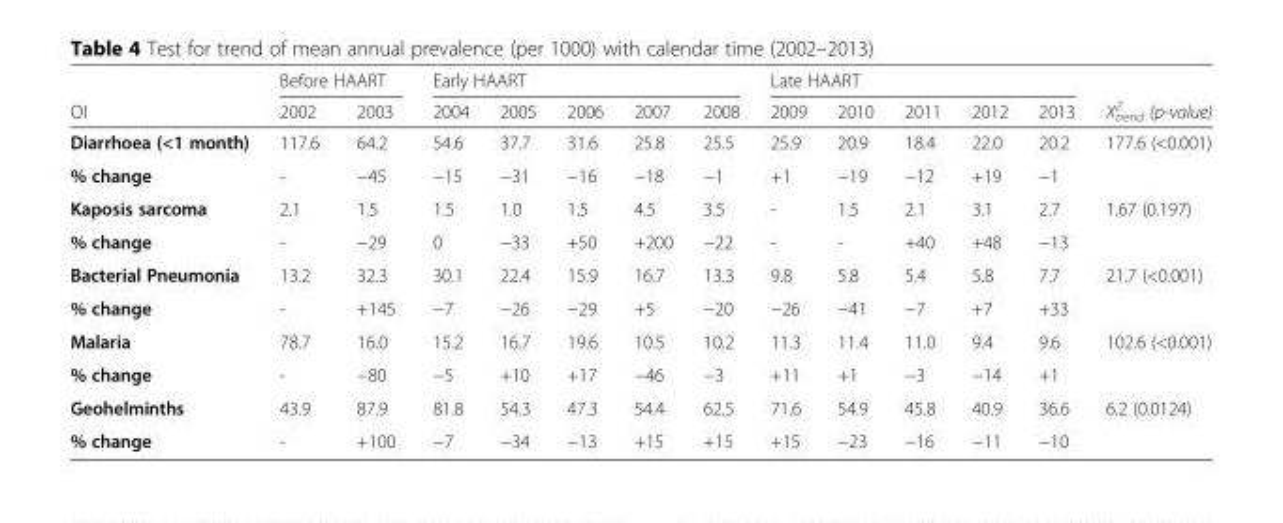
<table><thead><tr><td rowspan="2">OI</td><td colspan="2">Before HAART</td><td colspan="5">Early HAART</td><td colspan="5">Late HAART</td><td rowspan="2">X<sup>2</sup> <sub>trend</sub> (p-value)</td></tr><tr><td>2002</td><td>2003</td><td>2004</td><td>2005</td><td>2006</td><td>2007</td><td>2008</td><td>2009</td><td>2010</td><td>2011</td><td>2012</td><td>2013</td></tr></thead><tbody><tr><td>Diarrhoea (&lt;1 month)</td><td>117.6</td><td>64.2</td><td>54.6</td><td>37.7</td><td>31.6</td><td>25.8</td><td>25.5</td><td>25.9</td><td>20.9</td><td>18.4</td><td>22.0</td><td>20.2</td><td>177.6 (&lt;0.001)</td></tr><tr><td>% change</td><td>-</td><td>−45</td><td>−15</td><td>−31</td><td>−16</td><td>−18</td><td>−1</td><td>+1</td><td>−19</td><td>−12</td><td>+19</td><td>−1</td><td></td></tr><tr><td>Kaposis sarcoma</td><td>2.1</td><td>1.5</td><td>1.5</td><td>1.0</td><td>1.5</td><td>4.5</td><td>3.5</td><td>-</td><td>1.5</td><td>2.1</td><td>3.1</td><td>2.7</td><td>1.67 (0.197)</td></tr><tr><td>% change</td><td>-</td><td>−29</td><td>0</td><td>−33</td><td>+50</td><td>+200</td><td>−22</td><td>-</td><td>-</td><td>+40</td><td>+48</td><td>−13</td><td></td></tr><tr><td>Bacterial Pneumonia</td><td>13.2</td><td>32.3</td><td>30.1</td><td>22.4</td><td>15.9</td><td>16.7</td><td>13.3</td><td>9.8</td><td>5.8</td><td>5.4</td><td>5.8</td><td>7.7</td><td>21.7 (&lt;0.001)</td></tr><tr><td>% change</td><td>-</td><td>+145</td><td>−7</td><td>−26</td><td>−29</td><td>+5</td><td>−20</td><td>−26</td><td>−41</td><td>−7</td><td>+7</td><td>+33</td><td></td></tr><tr><td>Malaria</td><td>78.7</td><td>16.0</td><td>15.2</td><td>16.7</td><td>19.6</td><td>10.5</td><td>10.2</td><td>11.3</td><td>11.4</td><td>11.0</td><td>9.4</td><td>9.6</td><td>102.6 (&lt;0.001)</td></tr><tr><td>% change</td><td>-</td><td>−80</td><td>−5</td><td>+10</td><td>+17</td><td>−46</td><td>−3</td><td>+11</td><td>+1</td><td>−3</td><td>−14</td><td>+1</td><td></td></tr><tr><td>Geohelminths</td><td>43.9</td><td>87.9</td><td>81.8</td><td>54.3</td><td>47.3</td><td>54.4</td><td>62.5</td><td>71.6</td><td>54.9</td><td>45.8</td><td>40.9</td><td>36.6</td><td>6.2 (0.0124)</td></tr><tr><td>% change</td><td>-</td><td>+100</td><td>−7</td><td>−34</td><td>−13</td><td>+15</td><td>+15</td><td>+15</td><td>−23</td><td>−16</td><td>−11</td><td>−10</td><td></td></tr></tbody></table>